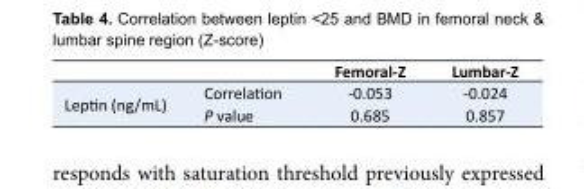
<table><thead><tr><td></td><td></td><td>Femoral-Z</td><td>Lumbar-Z</td></tr></thead><tbody><tr><td rowspan="2">Leptin (ng/mL)</td><td>Correlation</td><td>-0.053</td><td>-0.024</td></tr><tr><td>P value</td><td>0.685</td><td>0.857</td></tr></tbody></table>